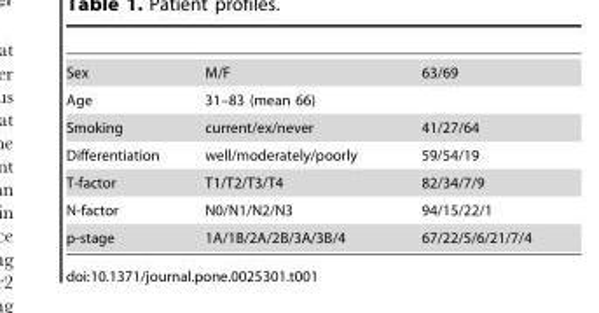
<table><tbody><tr><td>Sex</td><td>M/F</td><td>63/69</td></tr><tr><td>Age</td><td>31–83 (mean 66)</td><td></td></tr><tr><td>Smoking</td><td>current/ex/never</td><td>41/27/64</td></tr><tr><td>Differentiation</td><td>well/moderately/poorly</td><td>59/54/19</td></tr><tr><td>T-factor</td><td>T1/T2/T3/T4</td><td>82/34/7/9</td></tr><tr><td>N-factor</td><td>N0/N1/N2/N3</td><td>94/15/22/1</td></tr><tr><td>p-stage</td><td>1A/1B/2A/2B/3A/3B/4</td><td>67/22/5/6/21/7/4</td></tr></tbody></table>